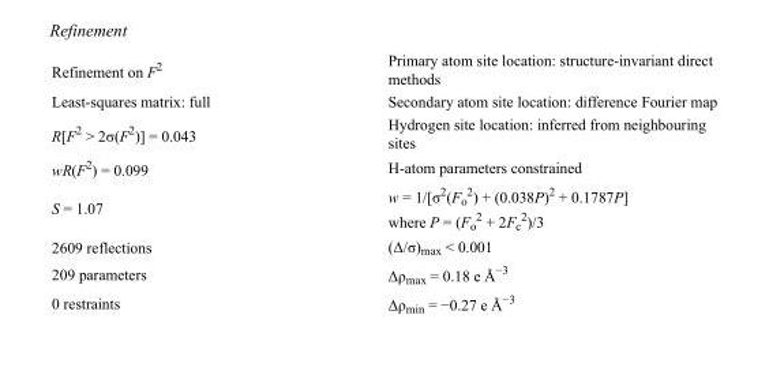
<table><tbody><tr><td>Refinement on F<sup>2</sup></td><td>Primary atom site location: structure-invariant direct methods</td></tr><tr><td>Least-squares matrix: full</td><td>Secondary atom site location: difference Fourier map</td></tr><tr><td>R[F<sup>2</sup> &gt; 2σ(F<sup>2</sup>)] = 0.043</td><td>Hydrogen site location: inferred from neighbouring sites</td></tr><tr><td>wR(F<sup>2</sup>) = 0.099</td><td>H-atom parameters constrained</td></tr><tr><td>S = 1.07</td><td>w = 1/[σ<sup>2</sup>(F<sub>o</sub> <sup>2</sup>) + (0.038P)<sup>2</sup> + 0.1787P] where P = (F<sub>o</sub> <sup>2</sup> + 2F<sub>c</sub> <sup>2</sup>)/3</td></tr><tr><td>2609 reflections</td><td>(Δ/σ)<sub>max</sub> &lt; 0.001</td></tr><tr><td>209 parameters</td><td>Δρ<sub>max</sub> = 0.18 e Å<sup>−3</sup></td></tr><tr><td>0 restraints</td><td>Δρ<sub>min</sub> = −0.27 e Å<sup>−3</sup></td></tr></tbody></table>